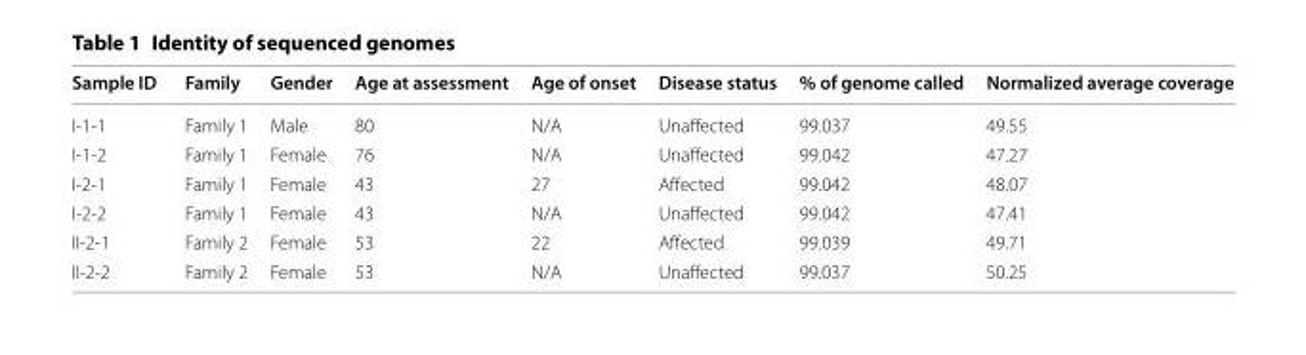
<table><thead><tr><td>Sample ID</td><td>Family</td><td>Gender</td><td>Age at assessment</td><td>Age of onset</td><td>Disease status</td><td>% of genome called</td><td>Normalized average coverage</td></tr></thead><tbody><tr><td>I-1-1</td><td>Family 1</td><td>Male</td><td>80</td><td>N/A</td><td>Unaffected</td><td>99.037</td><td>49.55</td></tr><tr><td>I-1-2</td><td>Family 1</td><td>Female</td><td>76</td><td>N/A</td><td>Unaffected</td><td>99.042</td><td>47.27</td></tr><tr><td>I-2-1</td><td>Family 1</td><td>Female</td><td>43</td><td>27</td><td>Affected</td><td>99.042</td><td>48.07</td></tr><tr><td>I-2-2</td><td>Family 1</td><td>Female</td><td>43</td><td>N/A</td><td>Unaffected</td><td>99.042</td><td>47.41</td></tr><tr><td>II-2-1</td><td>Family 2</td><td>Female</td><td>53</td><td>22</td><td>Affected</td><td>99.039</td><td>49.71</td></tr><tr><td>II-2-2</td><td>Family 2</td><td>Female</td><td>53</td><td>N/A</td><td>Unaffected</td><td>99.037</td><td>50.25</td></tr></tbody></table>